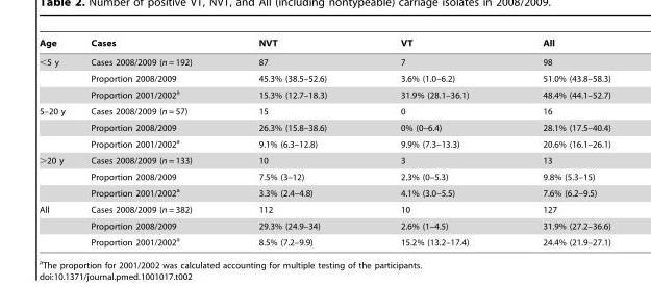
<table><thead><tr><td>Age</td><td>Cases</td><td>NVT</td><td>VT</td><td>All</td></tr></thead><tbody><tr><td rowspan="3">&lt;5 y</td><td>Cases 2008/2009 (n = 192)</td><td>87</td><td>7</td><td>98</td></tr><tr><td>Proportion 2008/2009</td><td>45.3% (38.5–52.6)</td><td>3.6% (1.0–6.2)</td><td>51.0% (43.8–58.3)</td></tr><tr><td>Proportion 2001/2002<sup>a</sup></td><td>15.3% (12.7–18.3)</td><td>31.9% (28.1–36.1)</td><td>48.4% (44.1–52.7)</td></tr><tr><td rowspan="3">5–20 y</td><td>Cases 2008/2009 (n = 57)</td><td>15</td><td>0</td><td>16</td></tr><tr><td>Proportion 2008/2009</td><td>26.3% (15.8–38.6)</td><td>0% (0–6.4)</td><td>28.1% (17.5–40.4)</td></tr><tr><td>Proportion 2001/2002<sup>a</sup></td><td>9.1% (6.3–12.8)</td><td>9.9% (7.3–13.3)</td><td>20.6% (16.1–26.1)</td></tr><tr><td rowspan="3">&gt;20 y</td><td>Cases 2008/2009 (n = 133)</td><td>10</td><td>3</td><td>13</td></tr><tr><td>Proportion 2008/2009</td><td>7.5% (3–12)</td><td>2.3% (0–5.3)</td><td>9.8% (5.3–15)</td></tr><tr><td>Proportion 2001/2002<sup>a</sup></td><td>3.3% (2.4–4.8)</td><td>4.1% (3.0–5.5)</td><td>7.6% (6.2–9.5)</td></tr><tr><td rowspan="3">All</td><td>Cases 2008/2009 (n = 382)</td><td>112</td><td>10</td><td>127</td></tr><tr><td>Proportion 2008/2009</td><td>29.3% (24.9–34)</td><td>2.6% (1–4.5)</td><td>31.9% (27.2–36.6)</td></tr><tr><td>Proportion 2001/2002<sup>a</sup></td><td>8.5% (7.2–9.9)</td><td>15.2% (13.2–17.4)</td><td>24.4% (21.9–27.1)</td></tr></tbody></table>